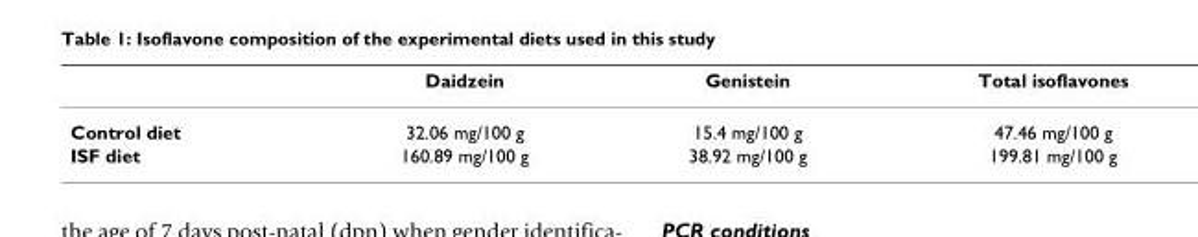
<table><thead><tr><td></td><td>Daidzein</td><td>Genistein</td><td>Total isoflavones</td></tr></thead><tbody><tr><td>Control diet</td><td>32.06 mg/100 g</td><td>15.4 mg/100 g</td><td>47.46 mg/100 g</td></tr><tr><td>ISF diet</td><td>160.89 mg/100 g</td><td>38.92 mg/100 g</td><td>199.81 mg/100 g</td></tr></tbody></table>